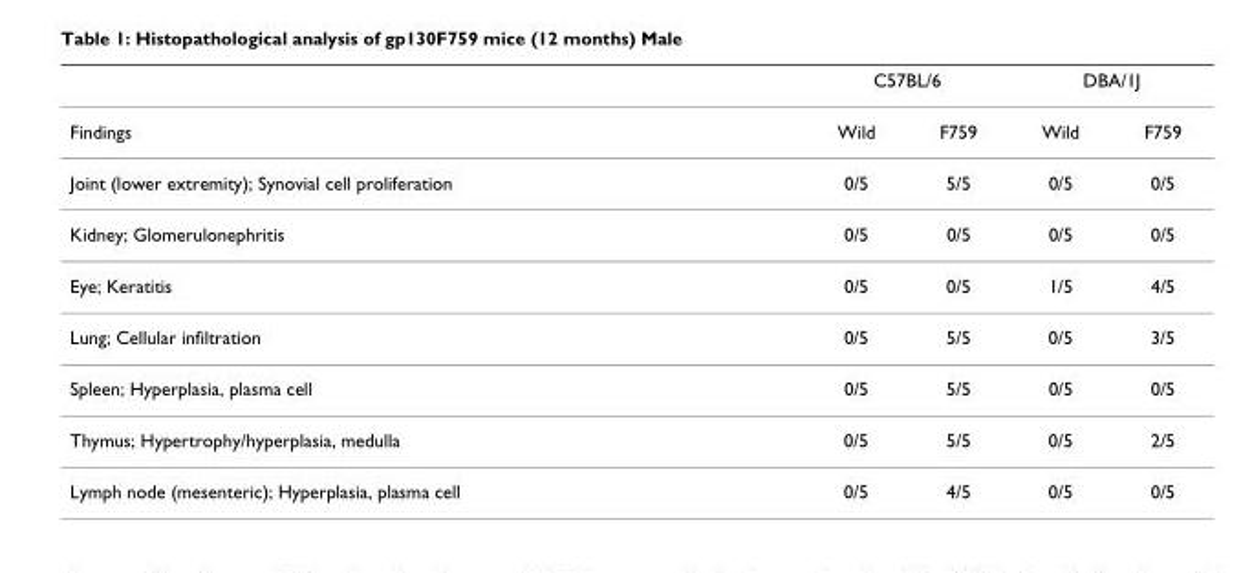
<table><thead><tr><td rowspan="2">Findings</td><td colspan="2">C57BL/6</td><td colspan="2">DBA/1J</td></tr><tr><td>Wild</td><td>F759</td><td>Wild</td><td>F759</td></tr></thead><tbody><tr><td>Joint (lower extremity); Synovial cell proliferation</td><td>0/5</td><td>5/5</td><td>0/5</td><td>0/5</td></tr><tr><td>Kidney; Glomerulonephritis</td><td>0/5</td><td>0/5</td><td>0/5</td><td>0/5</td></tr><tr><td>Eye; Keratitis</td><td>0/5</td><td>0/5</td><td>1/5</td><td>4/5</td></tr><tr><td>Lung; Cellular infiltration</td><td>0/5</td><td>5/5</td><td>0/5</td><td>3/5</td></tr><tr><td>Spleen; Hyperplasia, plasma cell</td><td>0/5</td><td>5/5</td><td>0/5</td><td>0/5</td></tr><tr><td>Thymus; Hypertrophy/hyperplasia, medulla</td><td>0/5</td><td>5/5</td><td>0/5</td><td>2/5</td></tr><tr><td>Lymph node (mesenteric); Hyperplasia, plasma cell</td><td>0/5</td><td>4/5</td><td>0/5</td><td>0/5</td></tr></tbody></table>